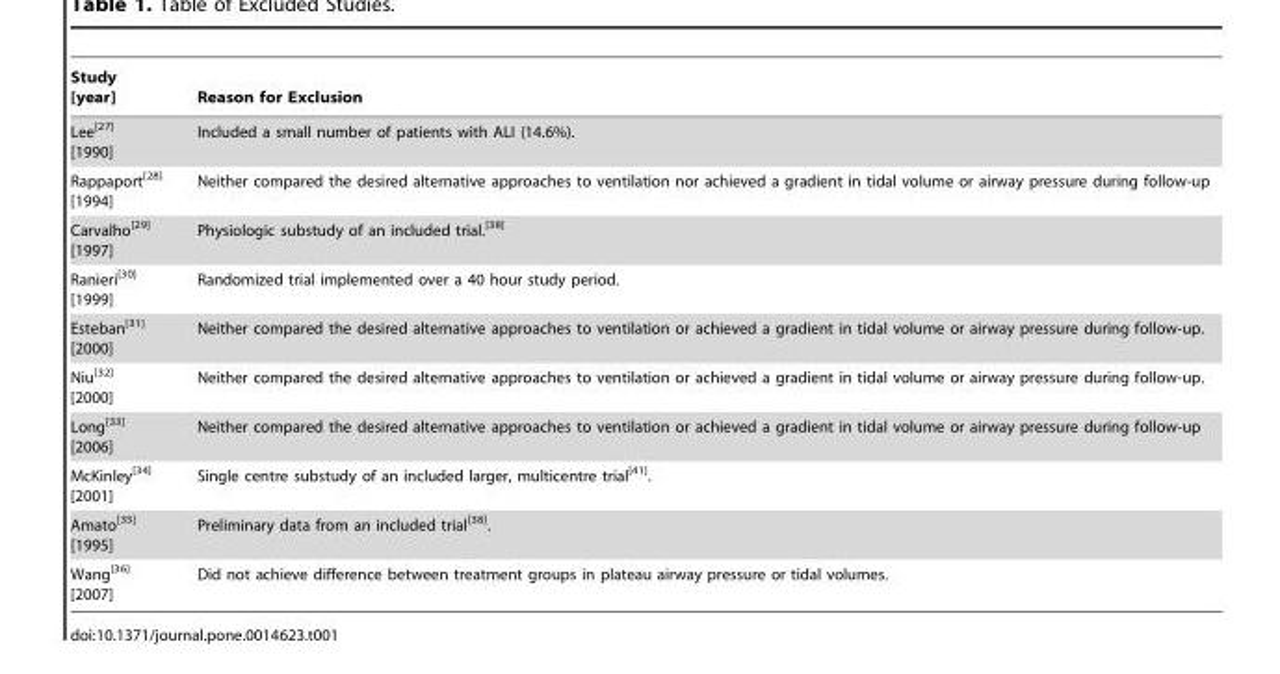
<table><thead><tr><td>Study [year]</td><td>Reason for Exclusion</td></tr></thead><tbody><tr><td>Lee<sup>[27]</sup> [1990]</td><td>Included a small number of patients with ALI (14.6%).</td></tr><tr><td>Rappaport<sup>[28]</sup> [1994]</td><td>Neither compared the desired alternative approaches to ventilation nor achieved a gradient in tidal volume or airway pressure during follow-up</td></tr><tr><td>Carvalho<sup>[29]</sup> [1997]</td><td>Physiologic substudy of an included trial.<sup>[38]</sup></td></tr><tr><td>Ranieri<sup>[30]</sup> [1999]</td><td>Randomized trial implemented over a 40 hour study period.</td></tr><tr><td>Esteban<sup>[31]</sup> [2000]</td><td>Neither compared the desired alternative approaches to ventilation or achieved a gradient in tidal volume or airway pressure during follow-up.</td></tr><tr><td>Niu<sup>[32]</sup> [2000]</td><td>Neither compared the desired alternative approaches to ventilation or achieved a gradient in tidal volume or airway pressure during follow-up.</td></tr><tr><td>Long<sup>[33]</sup> [2006]</td><td>Neither compared the desired alternative approaches to ventilation or achieved a gradient in tidal volume or airway pressure during follow-up</td></tr><tr><td>McKinley<sup>[34]</sup> [2001]</td><td>Single centre substudy of an included larger, multicentre trial<sup>[41]</sup>.</td></tr><tr><td>Amato<sup>[35]</sup> [1995]</td><td>Preliminary data from an included trial<sup>[38]</sup>.</td></tr><tr><td>Wang<sup>[36]</sup> [2007]</td><td>Did not achieve difference between treatment groups in plateau airway pressure or tidal volumes.</td></tr></tbody></table>